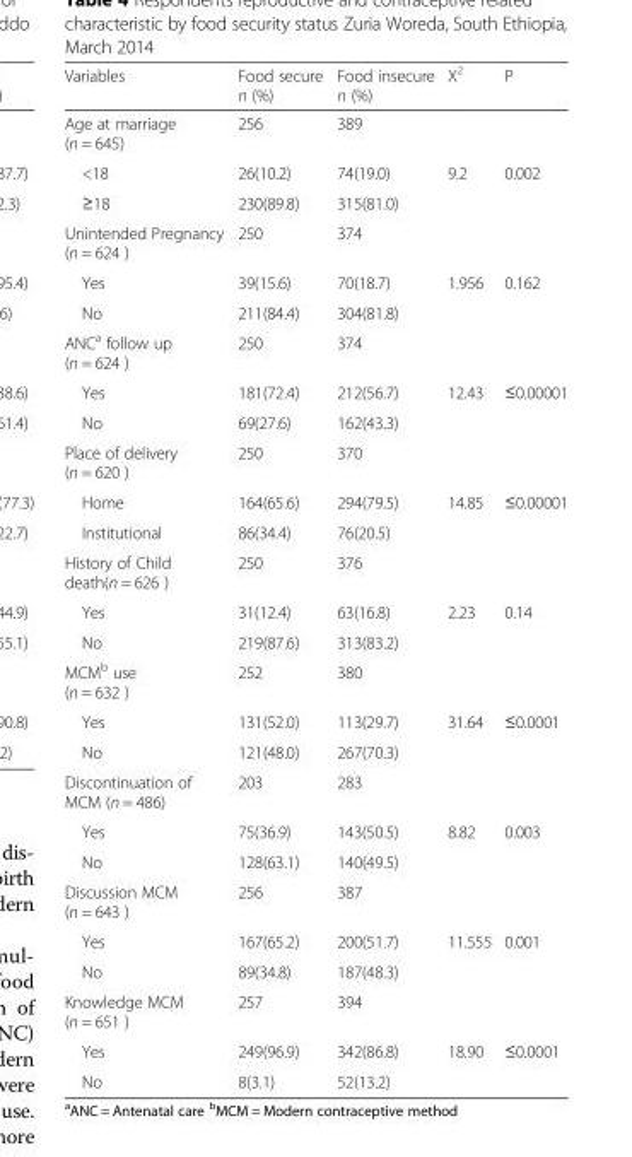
<table><thead><tr><td>Variables</td><td>Food secure n (%)</td><td>Food insecure n (%)</td><td>X<sup>2</sup></td><td>P</td></tr></thead><tbody><tr><td>Age at marriage (n = 645)</td><td>256</td><td>389</td><td></td><td></td></tr><tr><td>&lt;18</td><td>26(10.2)</td><td>74(19.0)</td><td>9.2</td><td>0.002</td></tr><tr><td>≥18</td><td>230(89.8)</td><td>315(81.0)</td><td></td><td></td></tr><tr><td>Unintended Pregnancy (n = 624 )</td><td>250</td><td>374</td><td></td><td></td></tr><tr><td>Yes</td><td>39(15.6)</td><td>70(18.7)</td><td>1.956</td><td>0.162</td></tr><tr><td>No</td><td>211(84.4)</td><td>304(81.8)</td><td></td><td></td></tr><tr><td>ANC<sup>a</sup> follow up (n = 624 )</td><td>250</td><td>374</td><td></td><td></td></tr><tr><td>Yes</td><td>181(72.4)</td><td>212(56.7)</td><td>12.43</td><td>≤0.00001</td></tr><tr><td>No</td><td>69(27.6)</td><td>162(43.3)</td><td></td><td></td></tr><tr><td>Place of delivery (n = 620 )</td><td>250</td><td>370</td><td></td><td></td></tr><tr><td>Home</td><td>164(65.6)</td><td>294(79.5)</td><td>14.85</td><td>≤0.00001</td></tr><tr><td>Institutional</td><td>86(34.4)</td><td>76(20.5)</td><td></td><td></td></tr><tr><td>History of Child death(n = 626 )</td><td>250</td><td>376</td><td></td><td></td></tr><tr><td>Yes</td><td>31(12.4)</td><td>63(16.8)</td><td>2.23</td><td>0.14</td></tr><tr><td>No</td><td>219(87.6)</td><td>313(83.2)</td><td></td><td></td></tr><tr><td>MCM<sup>b</sup> use (n = 632 )</td><td>252</td><td>380</td><td></td><td></td></tr><tr><td>Yes</td><td>131(52.0)</td><td>113(29.7)</td><td>31.64</td><td>≤0.0001</td></tr><tr><td>No</td><td>121(48.0)</td><td>267(70.3)</td><td></td><td></td></tr><tr><td>Discontinuation of MCM (n = 486)</td><td>203</td><td>283</td><td></td><td></td></tr><tr><td>Yes</td><td>75(36.9)</td><td>143(50.5)</td><td>8.82</td><td>0.003</td></tr><tr><td>No</td><td>128(63.1)</td><td>140(49.5)</td><td></td><td></td></tr><tr><td>Discussion MCM (n = 643 )</td><td>256</td><td>387</td><td></td><td></td></tr><tr><td>Yes</td><td>167(65.2)</td><td>200(51.7)</td><td>11.555</td><td>0.001</td></tr><tr><td>No</td><td>89(34.8)</td><td>187(48.3)</td><td></td><td></td></tr><tr><td>Knowledge MCM (n = 651 )</td><td>257</td><td>394</td><td></td><td></td></tr><tr><td>Yes</td><td>249(96.9)</td><td>342(86.8)</td><td>18.90</td><td>≤0.0001</td></tr><tr><td>No</td><td>8(3.1)</td><td>52(13.2)</td><td></td><td></td></tr></tbody></table>